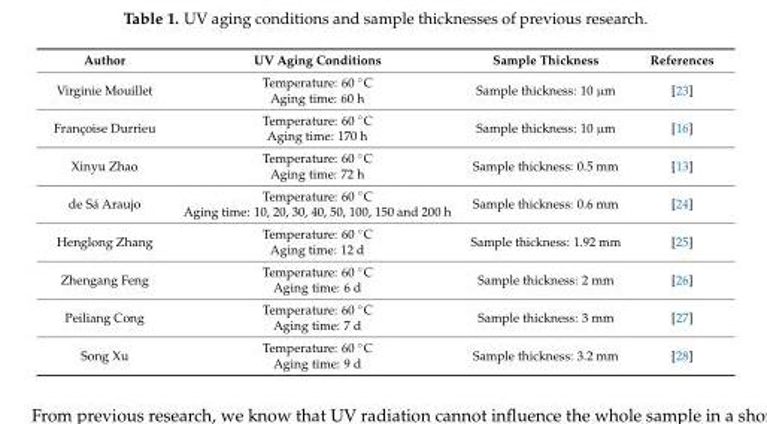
<table><thead><tr><td>Author</td><td>UV Aging Conditions</td><td>Sample Thickness</td><td>References</td></tr></thead><tbody><tr><td>Virginie Mouillet</td><td>Temperature: 60 ◦C Aging time: 60 h</td><td>Sample thickness: 10 µm</td><td>[23]</td></tr><tr><td>Françoise Durrieu</td><td>Temperature: 60 ◦C Aging time: 170 h</td><td>Sample thickness: 10 µm</td><td>[16]</td></tr><tr><td>Xinyu Zhao</td><td>Temperature: 60 ◦C Aging time: 72 h</td><td>Sample thickness: 0.5 mm</td><td>[13]</td></tr><tr><td>de Sá Araujo</td><td>Temperature: 60 ◦C Aging time: 10, 20, 30, 40, 50, 100, 150 and 200 h</td><td>Sample thickness: 0.6 mm</td><td>[24]</td></tr><tr><td>Henglong Zhang</td><td>Temperature: 60 ◦C Aging time: 12 d</td><td>Sample thickness: 1.92 mm</td><td>[25]</td></tr><tr><td>Zhengang Feng</td><td>Temperature: 60 ◦C Aging time: 6 d</td><td>Sample thickness: 2 mm</td><td>[26]</td></tr><tr><td>Peiliang Cong</td><td>Temperature: 60 ◦C Aging time: 7 d</td><td>Sample thickness: 3 mm</td><td>[27]</td></tr><tr><td>Song Xu</td><td>Temperature: 60 ◦C Aging time: 9 d</td><td>Sample thickness: 3.2 mm</td><td>[28]</td></tr></tbody></table>